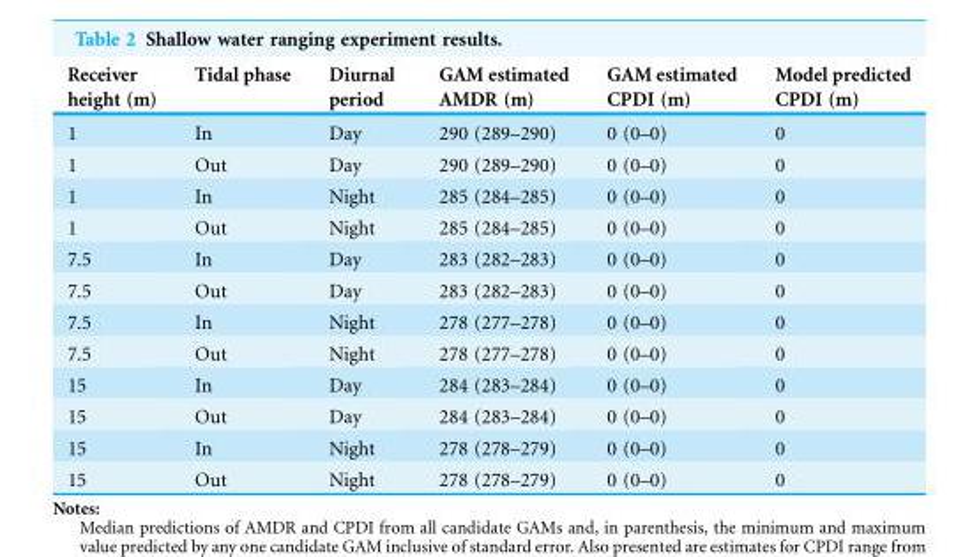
<table><thead><tr><td>Receiver height (m)</td><td>Tidal phase</td><td>Diurnal period</td><td>GAM estimated AMDR (m)</td><td>GAM estimated CPDI (m)</td><td>Model predicted CPDI (m)</td></tr></thead><tbody><tr><td>1</td><td>In</td><td>Day</td><td>290 (289–290)</td><td>0 (0–0)</td><td>0</td></tr><tr><td>1</td><td>Out</td><td>Day</td><td>290 (289–290)</td><td>0 (0–0)</td><td>0</td></tr><tr><td>1</td><td>In</td><td>Night</td><td>285 (284–285)</td><td>0 (0–0)</td><td>0</td></tr><tr><td>1</td><td>Out</td><td>Night</td><td>285 (284–285)</td><td>0 (0–0)</td><td>0</td></tr><tr><td>7.5</td><td>In</td><td>Day</td><td>283 (282–283)</td><td>0 (0–0)</td><td>0</td></tr><tr><td>7.5</td><td>Out</td><td>Day</td><td>283 (282–283)</td><td>0 (0–0)</td><td>0</td></tr><tr><td>7.5</td><td>In</td><td>Night</td><td>278 (277–278)</td><td>0 (0–0)</td><td>0</td></tr><tr><td>7.5</td><td>Out</td><td>Night</td><td>278 (277–278)</td><td>0 (0–0)</td><td>0</td></tr><tr><td>15</td><td>In</td><td>Day</td><td>284 (283–284)</td><td>0 (0–0)</td><td>0</td></tr><tr><td>15</td><td>Out</td><td>Day</td><td>284 (283–284)</td><td>0 (0–0)</td><td>0</td></tr><tr><td>15</td><td>In</td><td>Night</td><td>278 (278–279)</td><td>0 (0–0)</td><td>0</td></tr><tr><td>15</td><td>Out</td><td>Night</td><td>278 (278–279)</td><td>0 (0–0)</td><td>0</td></tr></tbody></table>